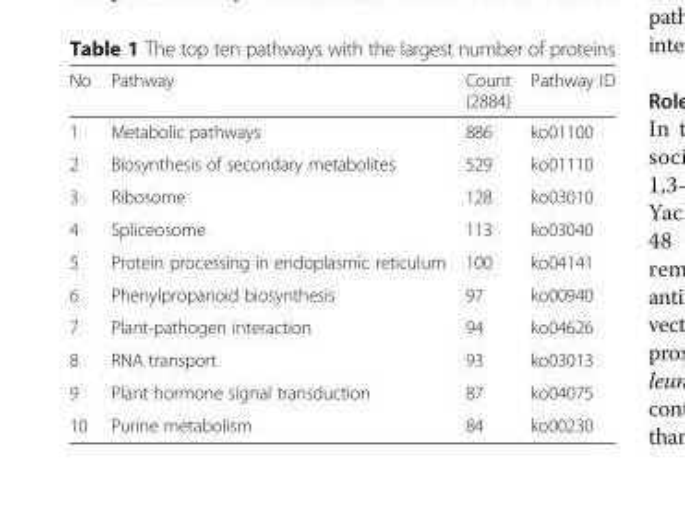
<table><thead><tr><td>No</td><td>Pathway</td><td>Count (2884)</td><td>Pathway ID</td></tr></thead><tbody><tr><td>1</td><td>Metabolic pathways</td><td>886</td><td>ko01100</td></tr><tr><td>2</td><td>Biosynthesis of secondary metabolites</td><td>529</td><td>ko01110</td></tr><tr><td>3</td><td>Ribosome</td><td>128</td><td>ko03010</td></tr><tr><td>4</td><td>Spliceosome</td><td>113</td><td>ko03040</td></tr><tr><td>5</td><td>Protein processing in endoplasmic reticulum</td><td>100</td><td>ko04141</td></tr><tr><td>6</td><td>Phenylpropanoid biosynthesis</td><td>97</td><td>ko00940</td></tr><tr><td>7</td><td>Plant-pathogen interaction</td><td>94</td><td>ko04626</td></tr><tr><td>8</td><td>RNA transport</td><td>93</td><td>ko03013</td></tr><tr><td>9</td><td>Plant hormone signal transduction</td><td>87</td><td>ko04075</td></tr><tr><td>10</td><td>Purine metabolism</td><td>84</td><td>ko00230</td></tr></tbody></table>